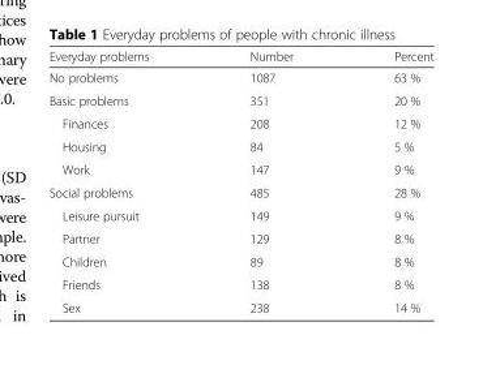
<table><thead><tr><td>Everyday problems</td><td>Number</td><td>Percent</td></tr></thead><tbody><tr><td>No problems</td><td>1087</td><td>63 %</td></tr><tr><td>Basic problems</td><td>351</td><td>20 %</td></tr><tr><td>Finances</td><td>208</td><td>12 %</td></tr><tr><td>Housing</td><td>84</td><td>5 %</td></tr><tr><td>Work</td><td>147</td><td>9 %</td></tr><tr><td>Social problems</td><td>485</td><td>28 %</td></tr><tr><td>Leisure pursuit</td><td>149</td><td>9 %</td></tr><tr><td>Partner</td><td>129</td><td>8 %</td></tr><tr><td>Children</td><td>89</td><td>8 %</td></tr><tr><td>Friends</td><td>138</td><td>8 %</td></tr><tr><td>Sex</td><td>238</td><td>14 %</td></tr></tbody></table>